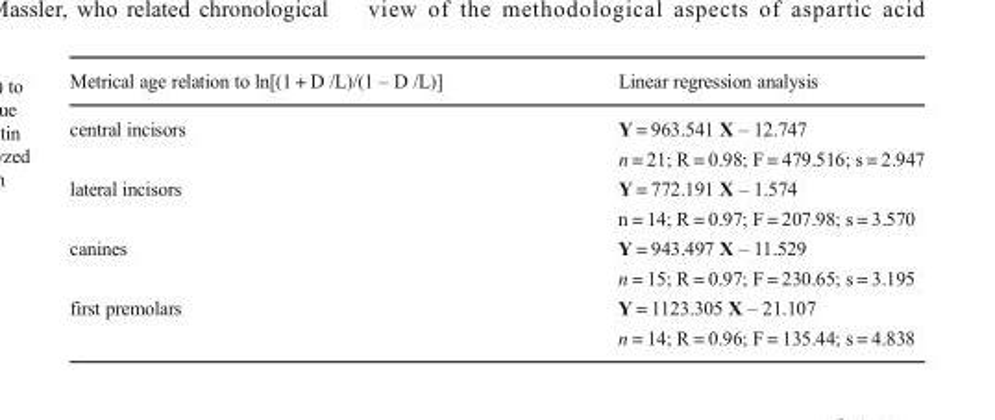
<table><thead><tr><td>Metrical age relation to ln[(1 + D /L)/(1 – D /L)]</td><td>Linear regression analysis</td></tr></thead><tbody><tr><td>central incisors</td><td>Y = 963.541 X – 12.747 n = 21; R = 0.98; F = 479.516; s = 2.947</td></tr><tr><td>lateral incisors</td><td>Y = 772.191 X – 1.574 n = 14; R = 0.97; F = 207.98; s = 3.570</td></tr><tr><td>canines</td><td>Y = 943.497 X – 11.529 n = 15; R = 0.97; F = 230.65; s = 3.195</td></tr><tr><td>first premolars</td><td>Y = 1123.305 X – 21.107 n = 14; R = 0.96; F = 135.44; s = 4.838</td></tr></tbody></table>